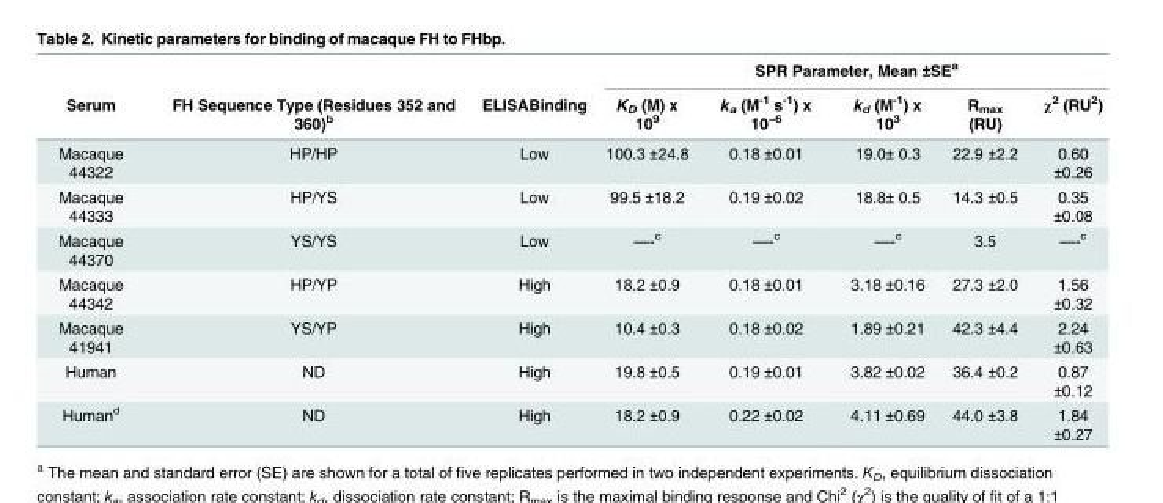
<table><thead><tr><td rowspan="2">Serum</td><td rowspan="2">FH Sequence Type (Residues 352 and 360)<sup>b</sup></td><td rowspan="2">ELISABinding</td><td colspan="5">SPR Parameter, Mean ±SE<sup>a</sup></td></tr><tr><td>K<sub>D</sub> (M) x 10<sup>9</sup></td><td>k<sub>a</sub> (M<sup>-1</sup> s<sup>-1</sup>) x 10<sup>−6</sup></td><td>k<sub>d</sub> (M<sup>-1</sup>) x 10<sup>3</sup></td><td>R<sub>max</sub> (RU)</td><td>χ<sup>2</sup> (RU<sup>2</sup>)</td></tr></thead><tbody><tr><td>Macaque 44322</td><td>HP/HP</td><td>Low</td><td>100.3 ±24.8</td><td>0.18 ±0.01</td><td>19.0± 0.3</td><td>22.9 ±2.2</td><td>0.60 ±0.26</td></tr><tr><td>Macaque 44333</td><td>HP/YS</td><td>Low</td><td>99.5 ±18.2</td><td>0.19 ±0.02</td><td>18.8± 0.5</td><td>14.3 ±0.5</td><td>0.35 ±0.08</td></tr><tr><td>Macaque 44370</td><td>YS/YS</td><td>Low</td><td>—-<sup>c</sup></td><td>—-<sup>c</sup></td><td>—-<sup>c</sup></td><td>3.5</td><td>—-<sup>c</sup></td></tr><tr><td>Macaque 44342</td><td>HP/YP</td><td>High</td><td>18.2 ±0.9</td><td>0.18 ±0.01</td><td>3.18 ±0.16</td><td>27.3 ±2.0</td><td>1.56 ±0.32</td></tr><tr><td>Macaque 41941</td><td>YS/YP</td><td>High</td><td>10.4 ±0.3</td><td>0.18 ±0.02</td><td>1.89 ±0.21</td><td>42.3 ±4.4</td><td>2.24 ±0.63</td></tr><tr><td>Human</td><td>ND</td><td>High</td><td>19.8 ±0.5</td><td>0.19 ±0.01</td><td>3.82 ±0.02</td><td>36.4 ±0.2</td><td>0.87 ±0.12</td></tr><tr><td>Human<sup>d</sup></td><td>ND</td><td>High</td><td>18.2 ±0.9</td><td>0.22 ±0.02</td><td>4.11 ±0.69</td><td>44.0 ±3.8</td><td>1.84 ±0.27</td></tr></tbody></table>